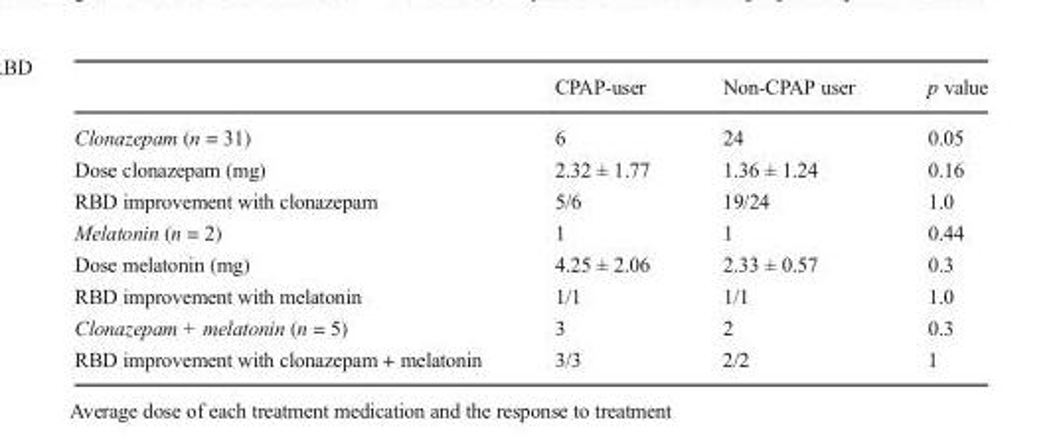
<table><thead><tr><td></td><td>CPAP-user</td><td>Non-CPAP user</td><td>p value</td></tr></thead><tbody><tr><td>Clonazepam (n = 31)</td><td>6</td><td>24</td><td>0.05</td></tr><tr><td>Dose clonazepam (mg)</td><td>2.32 ± 1.77</td><td>1.36 ± 1.24</td><td>0.16</td></tr><tr><td>RBD improvement with clonazepam</td><td>5/6</td><td>19/24</td><td>1.0</td></tr><tr><td>Melatonin (n = 2)</td><td>1</td><td>1</td><td>0.44</td></tr><tr><td>Dose melatonin (mg)</td><td>4.25 ± 2.06</td><td>2.33 ± 0.57</td><td>0.3</td></tr><tr><td>RBD improvement with melatonin</td><td>1/1</td><td>1/1</td><td>1.0</td></tr><tr><td>Clonazepam + melatonin (n = 5)</td><td>3</td><td>2</td><td>0.3</td></tr><tr><td>RBD improvement with clonazepam + melatonin</td><td>3/3</td><td>2/2</td><td>1</td></tr></tbody></table>